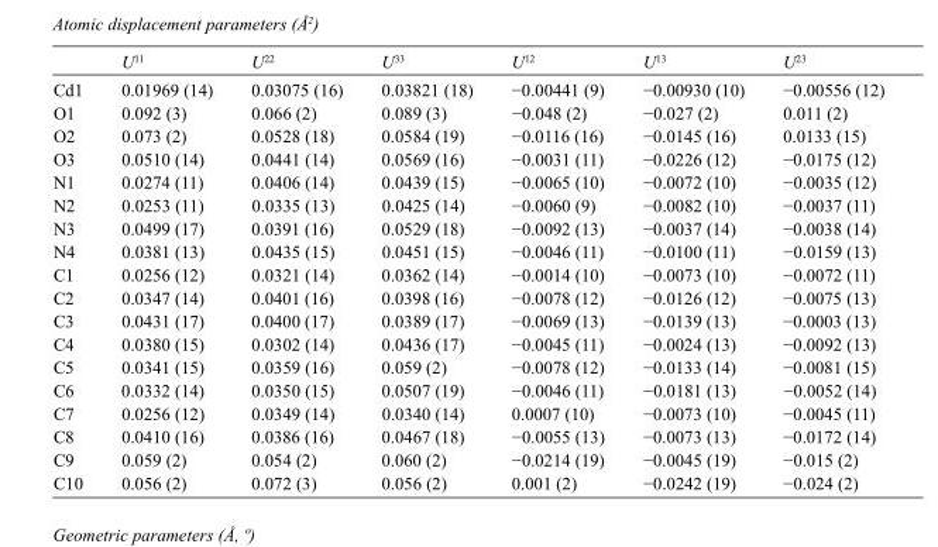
<table><thead><tr><td></td><td>U<sup>11</sup></td><td>U<sup>22</sup></td><td>U<sup>33</sup></td><td>U<sup>12</sup></td><td>U<sup>13</sup></td><td>U<sup>23</sup></td></tr></thead><tbody><tr><td>Cd1</td><td>0.01969 (14)</td><td>0.03075 (16)</td><td>0.03821 (18)</td><td>−0.00441 (9)</td><td>−0.00930 (10)</td><td>−0.00556 (12)</td></tr><tr><td>O1</td><td>0.092 (3)</td><td>0.066 (2)</td><td>0.089 (3)</td><td>−0.048 (2)</td><td>−0.027 (2)</td><td>0.011 (2)</td></tr><tr><td>O2</td><td>0.073 (2)</td><td>0.0528 (18)</td><td>0.0584 (19)</td><td>−0.0116 (16)</td><td>−0.0145 (16)</td><td>0.0133 (15)</td></tr><tr><td>O3</td><td>0.0510 (14)</td><td>0.0441 (14)</td><td>0.0569 (16)</td><td>−0.0031 (11)</td><td>−0.0226 (12)</td><td>−0.0175 (12)</td></tr><tr><td>N1</td><td>0.0274 (11)</td><td>0.0406 (14)</td><td>0.0439 (15)</td><td>−0.0065 (10)</td><td>−0.0072 (10)</td><td>−0.0035 (12)</td></tr><tr><td>N2</td><td>0.0253 (11)</td><td>0.0335 (13)</td><td>0.0425 (14)</td><td>−0.0060 (9)</td><td>−0.0082 (10)</td><td>−0.0037 (11)</td></tr><tr><td>N3</td><td>0.0499 (17)</td><td>0.0391 (16)</td><td>0.0529 (18)</td><td>−0.0092 (13)</td><td>−0.0037 (14)</td><td>−0.0038 (14)</td></tr><tr><td>N4</td><td>0.0381 (13)</td><td>0.0435 (15)</td><td>0.0451 (15)</td><td>−0.0046 (11)</td><td>−0.0100 (11)</td><td>−0.0159 (13)</td></tr><tr><td>C1</td><td>0.0256 (12)</td><td>0.0321 (14)</td><td>0.0362 (14)</td><td>−0.0014 (10)</td><td>−0.0073 (10)</td><td>−0.0072 (11)</td></tr><tr><td>C2</td><td>0.0347 (14)</td><td>0.0401 (16)</td><td>0.0398 (16)</td><td>−0.0078 (12)</td><td>−0.0126 (12)</td><td>−0.0075 (13)</td></tr><tr><td>C3</td><td>0.0431 (17)</td><td>0.0400 (17)</td><td>0.0389 (17)</td><td>−0.0069 (13)</td><td>−0.0139 (13)</td><td>−0.0003 (13)</td></tr><tr><td>C4</td><td>0.0380 (15)</td><td>0.0302 (14)</td><td>0.0436 (17)</td><td>−0.0045 (11)</td><td>−0.0024 (13)</td><td>−0.0092 (13)</td></tr><tr><td>C5</td><td>0.0341 (15)</td><td>0.0359 (16)</td><td>0.059 (2)</td><td>−0.0078 (12)</td><td>−0.0133 (14)</td><td>−0.0081 (15)</td></tr><tr><td>C6</td><td>0.0332 (14)</td><td>0.0350 (15)</td><td>0.0507 (19)</td><td>−0.0046 (11)</td><td>−0.0181 (13)</td><td>−0.0052 (14)</td></tr><tr><td>C7</td><td>0.0256 (12)</td><td>0.0349 (14)</td><td>0.0340 (14)</td><td>0.0007 (10)</td><td>−0.0073 (10)</td><td>−0.0045 (11)</td></tr><tr><td>C8</td><td>0.0410 (16)</td><td>0.0386 (16)</td><td>0.0467 (18)</td><td>−0.0055 (13)</td><td>−0.0073 (13)</td><td>−0.0172 (14)</td></tr><tr><td>C9</td><td>0.059 (2)</td><td>0.054 (2)</td><td>0.060 (2)</td><td>−0.0214 (19)</td><td>−0.0045 (19)</td><td>−0.015 (2)</td></tr><tr><td>C10</td><td>0.056 (2)</td><td>0.072 (3)</td><td>0.056 (2)</td><td>0.001 (2)</td><td>−0.0242 (19)</td><td>−0.024 (2)</td></tr></tbody></table>